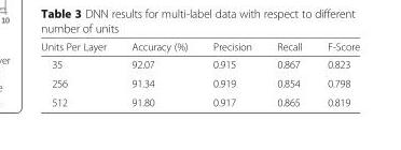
<table><thead><tr><td>Units Per Layer</td><td>Accuracy (%)</td><td>Precision</td><td>Recall</td><td>F-Score</td></tr></thead><tbody><tr><td>35</td><td>92.07</td><td>0.915</td><td>0.867</td><td>0.823</td></tr><tr><td>256</td><td>91.34</td><td>0.919</td><td>0.854</td><td>0.798</td></tr><tr><td>512</td><td>91.80</td><td>0.917</td><td>0.865</td><td>0.819</td></tr></tbody></table>